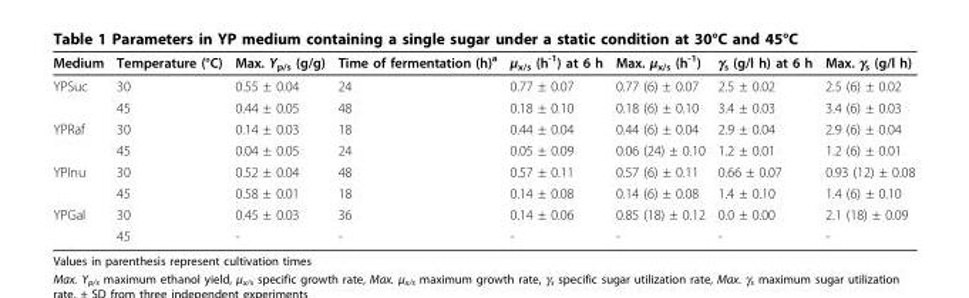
<table><thead><tr><td>Medium</td><td>Temperature (°C)</td><td>Max. Y<sub>p/s</sub> (g/g)</td><td>Time of fermentation (h)<sup>a</sup></td><td>μ<sub>x/s</sub> (h<sup>-1</sup>) at 6 h</td><td>Max. μ<sub>x/s</sub> (h<sup>-1</sup>)</td><td>γ<sub>s</sub> (g/l h) at 6 h</td><td>Max. γ<sub>s</sub> (g/l h)</td></tr></thead><tbody><tr><td rowspan="2">YPSuc</td><td>30</td><td>0.55 ± 0.04</td><td>24</td><td>0.77 ± 0.07</td><td>0.77 (6) ± 0.07</td><td>2.5 ± 0.02</td><td>2.5 (6) ± 0.02</td></tr><tr><td>45</td><td>0.44 ± 0.05</td><td>48</td><td>0.18 ± 0.10</td><td>0.18 (6) ± 0.10</td><td>3.4 ± 0.03</td><td>3.4 (6) ± 0.03</td></tr><tr><td rowspan="2">YPRaf</td><td>30</td><td>0.14 ± 0.03</td><td>18</td><td>0.44 ± 0.04</td><td>0.44 (6) ± 0.04</td><td>2.9 ± 0.04</td><td>2.9 (6) ± 0.04</td></tr><tr><td>45</td><td>0.04 ± 0.05</td><td>24</td><td>0.05 ± 0.09</td><td>0.06 (24) ± 0.10</td><td>1.2 ± 0.01</td><td>1.2 (6) ± 0.01</td></tr><tr><td rowspan="2">YPInu</td><td>30</td><td>0.52 ± 0.04</td><td>48</td><td>0.57 ± 0.11</td><td>0.57 (6) ± 0.11</td><td>0.66 ± 0.07</td><td>0.93 (12) ± 0.08</td></tr><tr><td>45</td><td>0.58 ± 0.01</td><td>18</td><td>0.14 ± 0.08</td><td>0.14 (6) ± 0.08</td><td>1.4 ± 0.10</td><td>1.4 (6) ± 0.10</td></tr><tr><td rowspan="2">YPGal</td><td>30</td><td>0.45 ± 0.03</td><td>36</td><td>0.14 ± 0.06</td><td>0.85 (18) ± 0.12</td><td>0.0 ± 0.00</td><td>2.1 (18) ± 0.09</td></tr><tr><td>45</td><td>-</td><td>-</td><td>-</td><td>-</td><td>-</td><td>-</td></tr></tbody></table>